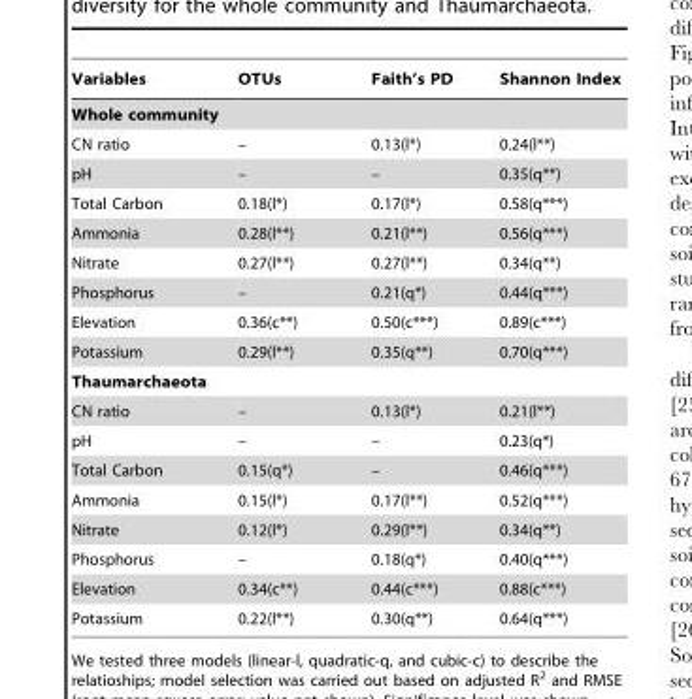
<table><thead><tr><td>Variables</td><td>OTUs</td><td>Faith’s PD</td><td>Shannon Index</td></tr></thead><tbody><tr><td colspan="4">Whole community</td></tr><tr><td>CN ratio</td><td>–</td><td>0.13(l*)</td><td>0.24(l**)</td></tr><tr><td>pH</td><td>–</td><td>–</td><td>0.35(q**)</td></tr><tr><td>Total Carbon</td><td>0.18(l*)</td><td>0.17(l*)</td><td>0.58(q***)</td></tr><tr><td>Ammonia</td><td>0.28(l**)</td><td>0.21(l**)</td><td>0.56(q***)</td></tr><tr><td>Nitrate</td><td>0.27(l**)</td><td>0.27(l**)</td><td>0.34(q**)</td></tr><tr><td>Phosphorus</td><td>–</td><td>0.21(q*)</td><td>0.44(q***)</td></tr><tr><td>Elevation</td><td>0.36(c**)</td><td>0.50(c***)</td><td>0.89(c***)</td></tr><tr><td>Potassium</td><td>0.29(l**)</td><td>0.35(q**)</td><td>0.70(q***)</td></tr><tr><td colspan="4">Thaumarchaeota</td></tr><tr><td>CN ratio</td><td>–</td><td>0.13(l*)</td><td>0.21(l**)</td></tr><tr><td>pH</td><td>–</td><td>–</td><td>0.23(q*)</td></tr><tr><td>Total Carbon</td><td>0.15(q*)</td><td>–</td><td>0.46(q***)</td></tr><tr><td>Ammonia</td><td>0.15(l*)</td><td>0.17(l**)</td><td>0.52(q***)</td></tr><tr><td>Nitrate</td><td>0.12(l*)</td><td>0.29(l**)</td><td>0.34(q**)</td></tr><tr><td>Phosphorus</td><td>–</td><td>0.18(q*)</td><td>0.40(q***)</td></tr><tr><td>Elevation</td><td>0.34(c**)</td><td>0.44(c***)</td><td>0.88(c***)</td></tr><tr><td>Potassium</td><td>0.22(l**)</td><td>0.30(q**)</td><td>0.64(q***)</td></tr></tbody></table>